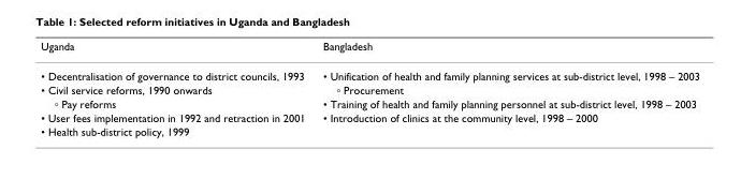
<table><thead><tr><td>Uganda</td><td>Bangladesh</td></tr></thead><tbody><tr><td>• Decentralisation of governance to district councils, 1993</td><td>• Unification of health and family planning services at sub-district level, 1998 – 2003</td></tr><tr><td>• Civil service reforms, 1990 onwards</td><td>∘ Procurement</td></tr><tr><td>∘ Pay reforms</td><td>• Training of health and family planning personnel at sub-district level, 1998 – 2003</td></tr><tr><td>• User fees implementation in 1992 and retraction in 2001</td><td>• Introduction of clinics at the community level, 1998 – 2000</td></tr><tr><td>• Health sub-district policy, 1999</td><td></td></tr></tbody></table>